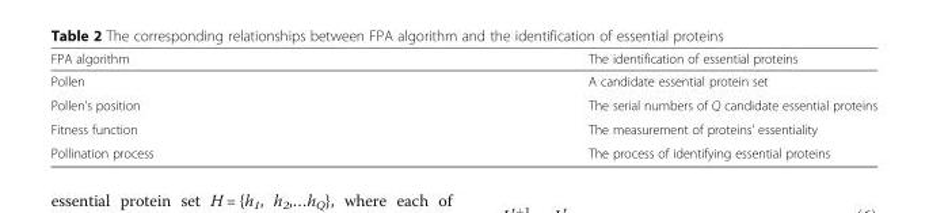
<table><thead><tr><td>FPA algorithm</td><td>The identification of essential proteins</td></tr></thead><tbody><tr><td>Pollen</td><td>A candidate essential protein set</td></tr><tr><td>Pollen’s position</td><td>The serial numbers of Q candidate essential proteins</td></tr><tr><td>Fitness function</td><td>The measurement of proteins’ essentiality</td></tr><tr><td>Pollination process</td><td>The process of identifying essential proteins</td></tr></tbody></table>